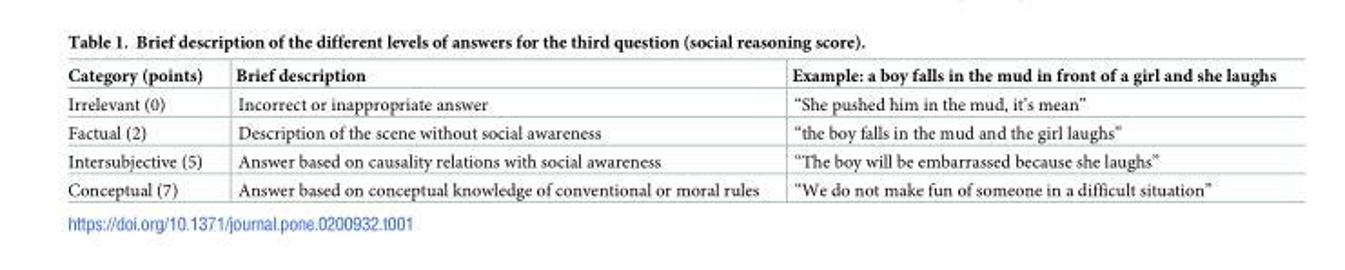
<table><thead><tr><td>Category (points)</td><td>Brief description</td><td>Example: a boy falls in the mud in front of a girl and she laughs</td></tr></thead><tbody><tr><td>Irrelevant (0)</td><td>Incorrect or inappropriate answer</td><td>“She pushed him in the mud, it’s mean”</td></tr><tr><td>Factual (2)</td><td>Description of the scene without social awareness</td><td>“the boy falls in the mud and the girl laughs”</td></tr><tr><td>Intersubjective (5)</td><td>Answer based on causality relations with social awareness</td><td>“The boy will be embarrassed because she laughs”</td></tr><tr><td>Conceptual (7)</td><td>Answer based on conceptual knowledge of conventional or moral rules</td><td>“We do not make fun of someone in a difficult situation”</td></tr></tbody></table>